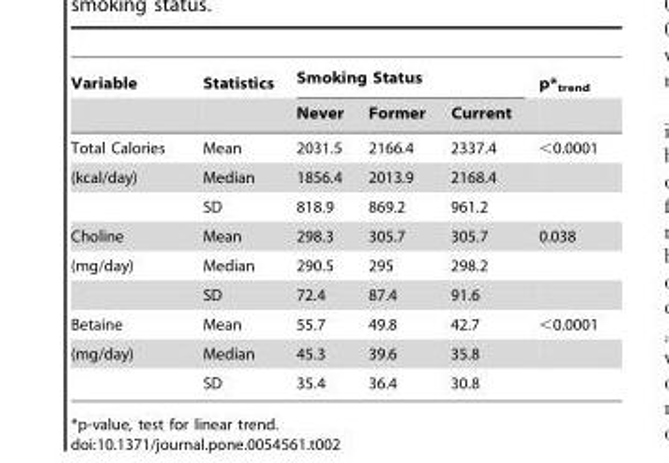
<table><thead><tr><td rowspan="2">Variable</td><td rowspan="2">Statistics</td><td colspan="3">Smoking Status</td><td rowspan="2">p*<sub>trend</sub></td></tr><tr><td>Never</td><td>Former</td><td>Current</td></tr></thead><tbody><tr><td>Total Calories</td><td>Mean</td><td>2031.5</td><td>2166.4</td><td>2337.4</td><td>&lt;0.0001</td></tr><tr><td rowspan="2">(kcal/day)</td><td>Median</td><td>1856.4</td><td>2013.9</td><td>2168.4</td><td></td></tr><tr><td>SD</td><td>818.9</td><td>869.2</td><td>961.2</td><td></td></tr><tr><td>Choline</td><td>Mean</td><td>298.3</td><td>305.7</td><td>305.7</td><td>0.038</td></tr><tr><td rowspan="2">(mg/day)</td><td>Median</td><td>290.5</td><td>295</td><td>298.2</td><td></td></tr><tr><td>SD</td><td>72.4</td><td>87.4</td><td>91.6</td><td></td></tr><tr><td>Betaine</td><td>Mean</td><td>55.7</td><td>49.8</td><td>42.7</td><td>&lt;0.0001</td></tr><tr><td rowspan="2">(mg/day)</td><td>Median</td><td>45.3</td><td>39.6</td><td>35.8</td><td></td></tr><tr><td>SD</td><td>35.4</td><td>36.4</td><td>30.8</td><td></td></tr></tbody></table>